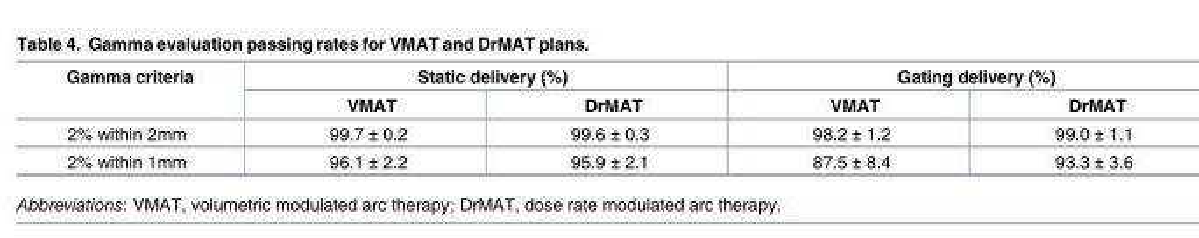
<table><thead><tr><td rowspan="2">Gamma criteria</td><td colspan="2">Static delivery (%)</td><td colspan="2">Gating delivery (%)</td></tr><tr><td>VMAT</td><td>DrMAT</td><td>VMAT</td><td>DrMAT</td></tr></thead><tbody><tr><td>2% within 2mm</td><td>99.7 ± 0.2</td><td>99.6 ± 0.3</td><td>98.2 ± 1.2</td><td>99.0 ± 1.1</td></tr><tr><td>2% within 1mm</td><td>96.1 ± 2.2</td><td>95.9 ± 2.1</td><td>87.5 ± 8.4</td><td>93.3 ± 3.6</td></tr></tbody></table>